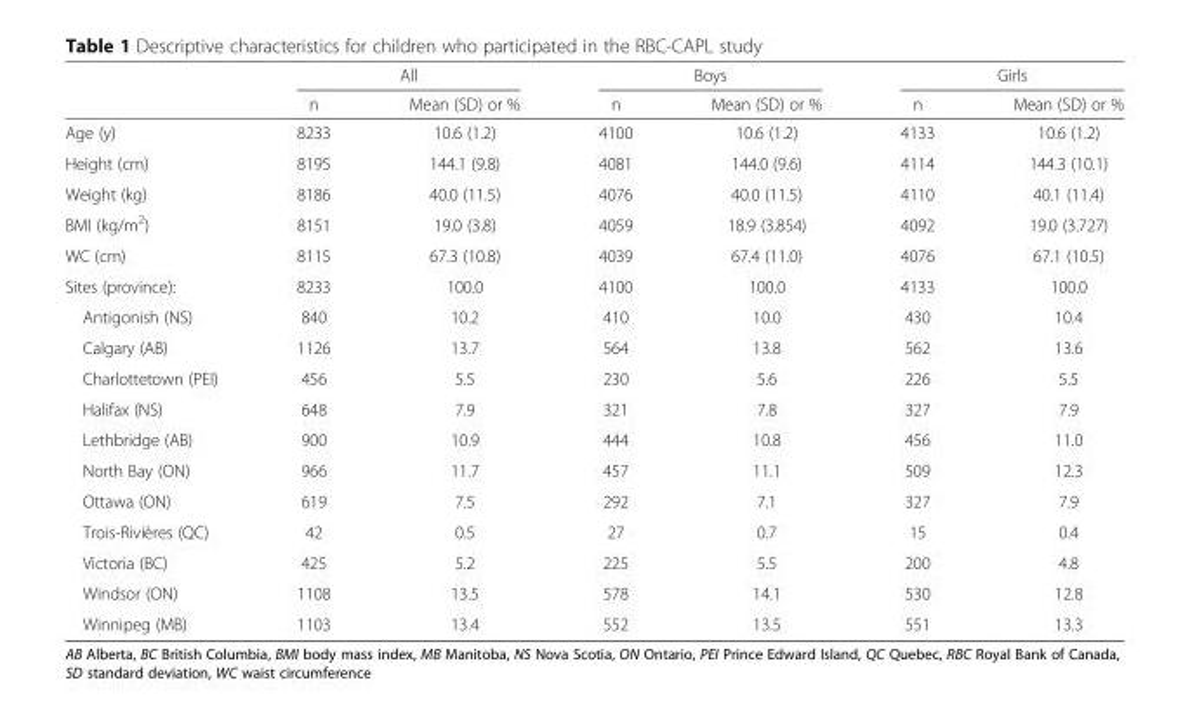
<table><thead><tr><td rowspan="2"></td><td colspan="2">All</td><td colspan="2">Boys</td><td colspan="2">Girls</td></tr><tr><td>n</td><td>Mean (SD) or %</td><td>n</td><td>Mean (SD) or %</td><td>n</td><td>Mean (SD) or %</td></tr></thead><tbody><tr><td>Age (y)</td><td>8233</td><td>10.6 (1.2)</td><td>4100</td><td>10.6 (1.2)</td><td>4133</td><td>10.6 (1.2)</td></tr><tr><td>Height (cm)</td><td>8195</td><td>144.1 (9.8)</td><td>4081</td><td>144.0 (9.6)</td><td>4114</td><td>144.3 (10.1)</td></tr><tr><td>Weight (kg)</td><td>8186</td><td>40.0 (11.5)</td><td>4076</td><td>40.0 (11.5)</td><td>4110</td><td>40.1 (11.4)</td></tr><tr><td>BMI (kg/m<sup>2</sup>)</td><td>8151</td><td>19.0 (3.8)</td><td>4059</td><td>18.9 (3.854)</td><td>4092</td><td>19.0 (3.727)</td></tr><tr><td>WC (cm)</td><td>8115</td><td>67.3 (10.8)</td><td>4039</td><td>67.4 (11.0)</td><td>4076</td><td>67.1 (10.5)</td></tr><tr><td>Sites (province):</td><td>8233</td><td>100.0</td><td>4100</td><td>100.0</td><td>4133</td><td>100.0</td></tr><tr><td>Antigonish (NS)</td><td>840</td><td>10.2</td><td>410</td><td>10.0</td><td>430</td><td>10.4</td></tr><tr><td>Calgary (AB)</td><td>1126</td><td>13.7</td><td>564</td><td>13.8</td><td>562</td><td>13.6</td></tr><tr><td>Charlottetown (PEI)</td><td>456</td><td>5.5</td><td>230</td><td>5.6</td><td>226</td><td>5.5</td></tr><tr><td>Halifax (NS)</td><td>648</td><td>7.9</td><td>321</td><td>7.8</td><td>327</td><td>7.9</td></tr><tr><td>Lethbridge (AB)</td><td>900</td><td>10.9</td><td>444</td><td>10.8</td><td>456</td><td>11.0</td></tr><tr><td>North Bay (ON)</td><td>966</td><td>11.7</td><td>457</td><td>11.1</td><td>509</td><td>12.3</td></tr><tr><td>Ottawa (ON)</td><td>619</td><td>7.5</td><td>292</td><td>7.1</td><td>327</td><td>7.9</td></tr><tr><td>Trois-Rivières (QC)</td><td>42</td><td>0.5</td><td>27</td><td>0.7</td><td>15</td><td>0.4</td></tr><tr><td>Victoria (BC)</td><td>425</td><td>5.2</td><td>225</td><td>5.5</td><td>200</td><td>4.8</td></tr><tr><td>Windsor (ON)</td><td>1108</td><td>13.5</td><td>578</td><td>14.1</td><td>530</td><td>12.8</td></tr><tr><td>Winnipeg (MB)</td><td>1103</td><td>13.4</td><td>552</td><td>13.5</td><td>551</td><td>13.3</td></tr></tbody></table>